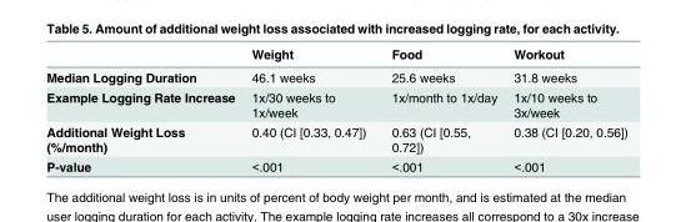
<table><thead><tr><td></td><td>Weight</td><td>Food</td><td>Workout</td></tr></thead><tbody><tr><td>Median Logging Duration</td><td>46.1 weeks</td><td>25.6 weeks</td><td>31.8 weeks</td></tr><tr><td>Example Logging Rate Increase</td><td>1x/30 weeks to 1x/week</td><td>1x/month to 1x/day</td><td>1x/10 weeks to 3x/week</td></tr><tr><td>Additional Weight Loss (%/month)</td><td>0.40 (CI [0.33, 0.47])</td><td>0.63 (CI [0.55, 0.72])</td><td>0.38 (CI [0.20, 0.56])</td></tr><tr><td>P-value</td><td>&lt;.001</td><td>&lt;.001</td><td>&lt;.001</td></tr></tbody></table>